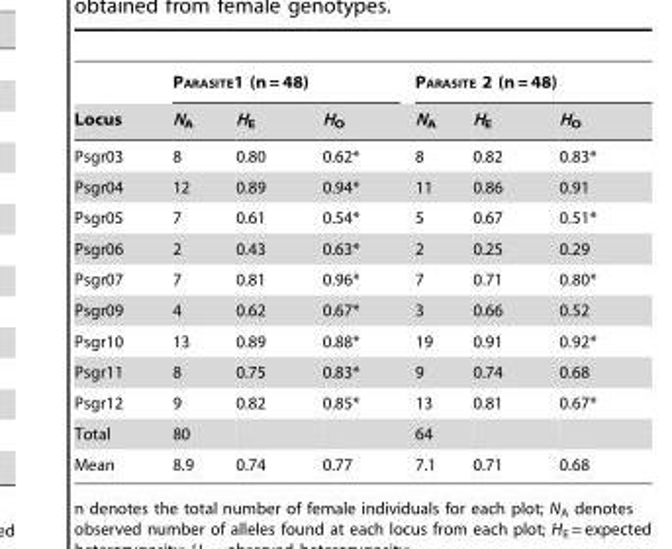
<table><thead><tr><td rowspan="2">Locus</td><td colspan="3">PARASITE1 (n = 48)</td><td colspan="3">PARASITE 2 (n = 48)</td></tr><tr><td>N<sub>A</sub></td><td>H<sub>E</sub></td><td>H<sub>O</sub></td><td>N<sub>A</sub></td><td>H<sub>E</sub></td><td>H<sub>O</sub></td></tr></thead><tbody><tr><td>Psgr03</td><td>8</td><td>0.80</td><td>0.62*</td><td>8</td><td>0.82</td><td>0.83*</td></tr><tr><td>Psgr04</td><td>12</td><td>0.89</td><td>0.94*</td><td>11</td><td>0.86</td><td>0.91</td></tr><tr><td>Psgr05</td><td>7</td><td>0.61</td><td>0.54*</td><td>5</td><td>0.67</td><td>0.51*</td></tr><tr><td>Psgr06</td><td>2</td><td>0.43</td><td>0.63*</td><td>2</td><td>0.25</td><td>0.29</td></tr><tr><td>Psgr07</td><td>7</td><td>0.81</td><td>0.96*</td><td>7</td><td>0.71</td><td>0.80*</td></tr><tr><td>Psgr09</td><td>4</td><td>0.62</td><td>0.67*</td><td>3</td><td>0.66</td><td>0.52</td></tr><tr><td>Psgr10</td><td>13</td><td>0.89</td><td>0.88*</td><td>19</td><td>0.91</td><td>0.92*</td></tr><tr><td>Psgr11</td><td>8</td><td>0.75</td><td>0.83*</td><td>9</td><td>0.74</td><td>0.68</td></tr><tr><td>Psgr12</td><td>9</td><td>0.82</td><td>0.85*</td><td>13</td><td>0.81</td><td>0.67*</td></tr><tr><td>Total</td><td>80</td><td></td><td></td><td>64</td><td></td><td></td></tr><tr><td>Mean</td><td>8.9</td><td>0.74</td><td>0.77</td><td>7.1</td><td>0.71</td><td>0.68</td></tr></tbody></table>